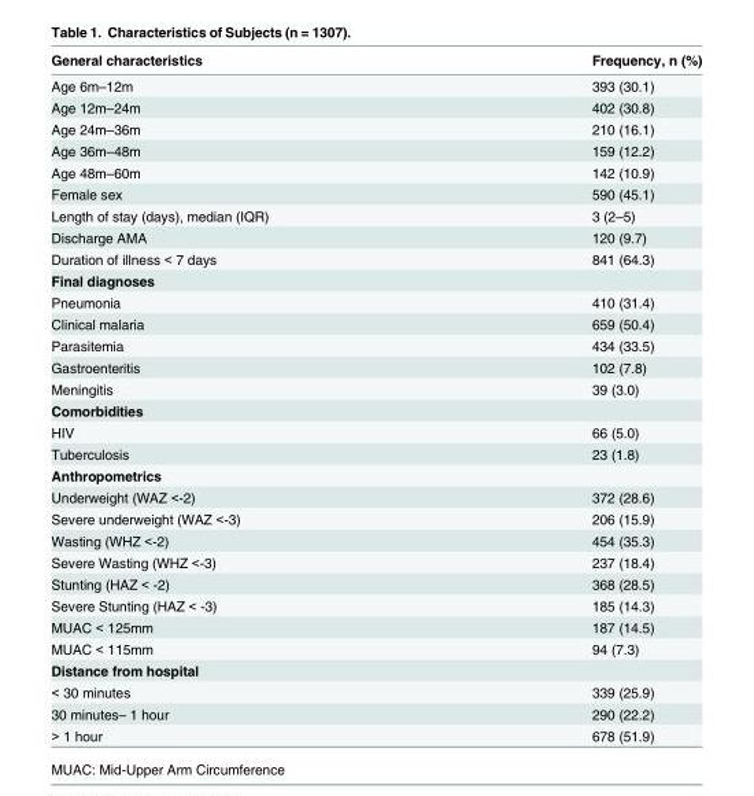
<table><thead><tr><td>General characteristics</td><td>Frequency, n (%)</td></tr></thead><tbody><tr><td>Age 6m–12m</td><td>393 (30.1)</td></tr><tr><td>Age 12m–24m</td><td>402 (30.8)</td></tr><tr><td>Age 24m–36m</td><td>210 (16.1)</td></tr><tr><td>Age 36m–48m</td><td>159 (12.2)</td></tr><tr><td>Age 48m–60m</td><td>142 (10.9)</td></tr><tr><td>Female sex</td><td>590 (45.1)</td></tr><tr><td>Length of stay (days), median (IQR)</td><td>3 (2–5)</td></tr><tr><td>Discharge AMA</td><td>120 (9.7)</td></tr><tr><td>Duration of illness &lt; 7 days</td><td>841 (64.3)</td></tr><tr><td colspan="2">Final diagnoses</td></tr><tr><td>Pneumonia</td><td>410 (31.4)</td></tr><tr><td>Clinical malaria</td><td>659 (50.4)</td></tr><tr><td>Parasitemia</td><td>434 (33.5)</td></tr><tr><td>Gastroenteritis</td><td>102 (7.8)</td></tr><tr><td>Meningitis</td><td>39 (3.0)</td></tr><tr><td colspan="2">Comorbidities</td></tr><tr><td>HIV</td><td>66 (5.0)</td></tr><tr><td>Tuberculosis</td><td>23 (1.8)</td></tr><tr><td colspan="2">Anthropometrics</td></tr><tr><td>Underweight (WAZ &lt;-2)</td><td>372 (28.6)</td></tr><tr><td>Severe underweight (WAZ &lt;-3)</td><td>206 (15.9)</td></tr><tr><td>Wasting (WHZ &lt;-2)</td><td>454 (35.3)</td></tr><tr><td>Severe Wasting (WHZ &lt;-3)</td><td>237 (18.4)</td></tr><tr><td>Stunting (HAZ &lt; -2)</td><td>368 (28.5)</td></tr><tr><td>Severe Stunting (HAZ &lt; -3)</td><td>185 (14.3)</td></tr><tr><td>MUAC &lt; 125mm</td><td>187 (14.5)</td></tr><tr><td>MUAC &lt; 115mm</td><td>94 (7.3)</td></tr><tr><td colspan="2">Distance from hospital</td></tr><tr><td>&lt; 30 minutes</td><td>339 (25.9)</td></tr><tr><td>30 minutes– 1 hour</td><td>290 (22.2)</td></tr><tr><td>&gt; 1 hour</td><td>678 (51.9)</td></tr></tbody></table>